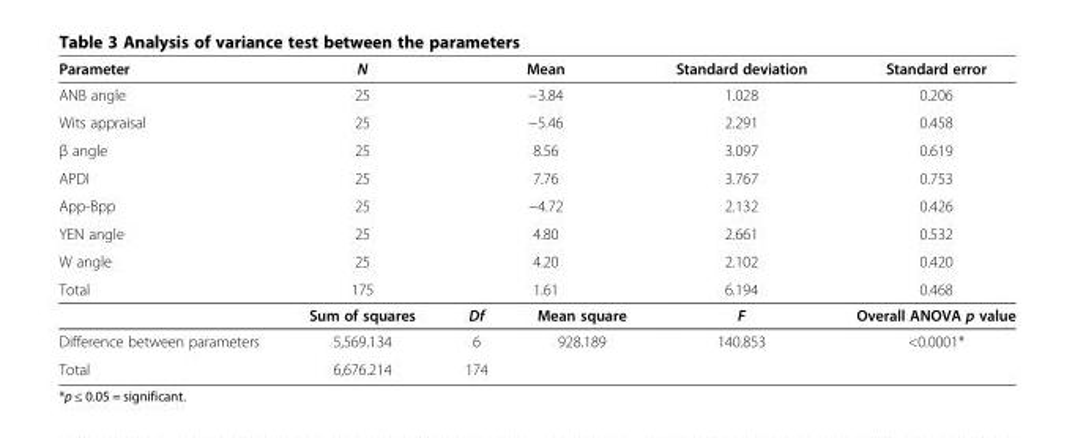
<table><thead><tr><td>Parameter</td><td>N</td><td colspan="2">Mean</td><td>Standard deviation</td><td>Standard error</td></tr></thead><tbody><tr><td>ANB angle</td><td>25</td><td colspan="2">−3.84</td><td>1.028</td><td>0.206</td></tr><tr><td>Wits appraisal</td><td>25</td><td colspan="2">−5.46</td><td>2.291</td><td>0.458</td></tr><tr><td>β angle</td><td>25</td><td colspan="2">8.56</td><td>3.097</td><td>0.619</td></tr><tr><td>APDI</td><td>25</td><td colspan="2">7.76</td><td>3.767</td><td>0.753</td></tr><tr><td>App-Bpp</td><td>25</td><td colspan="2">−4.72</td><td>2.132</td><td>0.426</td></tr><tr><td>YEN angle</td><td>25</td><td colspan="2">4.80</td><td>2.661</td><td>0.532</td></tr><tr><td>W angle</td><td>25</td><td colspan="2">4.20</td><td>2.102</td><td>0.420</td></tr><tr><td rowspan="2">Total</td><td>175</td><td colspan="2">1.61</td><td>6.194</td><td>0.468</td></tr><tr><td>Sum of squares</td><td>Df</td><td>Mean square</td><td>F</td><td>Overall ANOVA p value</td></tr><tr><td>Difference between parameters</td><td>5,569.134</td><td>6</td><td>928.189</td><td>140.853</td><td>&lt;0.0001*</td></tr><tr><td>Total</td><td>6,676.214</td><td>174</td><td></td><td></td><td></td></tr></tbody></table>